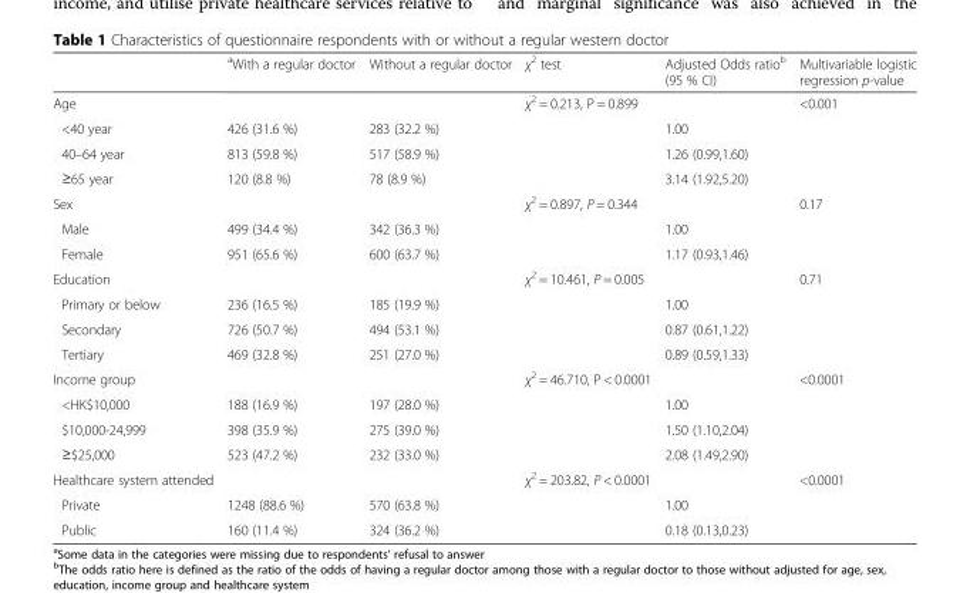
<table><thead><tr><td></td><td><sup>a</sup>With a regular doctor</td><td>Without a regular doctor</td><td>χ<sup>2</sup> test</td><td>Adjusted Odds ratio<sup>b</sup> (95 % CI)</td><td>Multivariable logistic regression p-value</td></tr></thead><tbody><tr><td>Age</td><td></td><td></td><td>χ<sup>2</sup> = 0.213, P = 0.899</td><td></td><td>&lt;0.001</td></tr><tr><td>&lt;40 year</td><td>426 (31.6 %)</td><td>283 (32.2 %)</td><td></td><td>1.00</td><td></td></tr><tr><td>40–64 year</td><td>813 (59.8 %)</td><td>517 (58.9 %)</td><td></td><td>1.26 (0.99,1.60)</td><td></td></tr><tr><td>≥65 year</td><td>120 (8.8 %)</td><td>78 (8.9 %)</td><td></td><td>3.14 (1.92,5.20)</td><td></td></tr><tr><td>Sex</td><td></td><td></td><td>χ<sup>2</sup> = 0.897, P = 0.344</td><td></td><td>0.17</td></tr><tr><td>Male</td><td>499 (34.4 %)</td><td>342 (36.3 %)</td><td></td><td>1.00</td><td></td></tr><tr><td>Female</td><td>951 (65.6 %)</td><td>600 (63.7 %)</td><td></td><td>1.17 (0.93,1.46)</td><td></td></tr><tr><td>Education</td><td></td><td></td><td>χ<sup>2</sup> = 10.461, P = 0.005</td><td></td><td>0.71</td></tr><tr><td>Primary or below</td><td>236 (16.5 %)</td><td>185 (19.9 %)</td><td></td><td>1.00</td><td></td></tr><tr><td>Secondary</td><td>726 (50.7 %)</td><td>494 (53.1 %)</td><td></td><td>0.87 (0.61,1.22)</td><td></td></tr><tr><td>Tertiary</td><td>469 (32.8 %)</td><td>251 (27.0 %)</td><td></td><td>0.89 (0.59,1.33)</td><td></td></tr><tr><td>Income group</td><td></td><td></td><td>χ<sup>2</sup> = 46.710, P &lt; 0.0001</td><td></td><td>&lt;0.0001</td></tr><tr><td>&lt;HK$10,000</td><td>188 (16.9 %)</td><td>197 (28.0 %)</td><td></td><td>1.00</td><td></td></tr><tr><td>$10,000-24,999</td><td>398 (35.9 %)</td><td>275 (39.0 %)</td><td></td><td>1.50 (1.10,2.04)</td><td></td></tr><tr><td>≥$25,000</td><td>523 (47.2 %)</td><td>232 (33.0 %)</td><td></td><td>2.08 (1.49,2.90)</td><td></td></tr><tr><td>Healthcare system attended</td><td></td><td></td><td>χ<sup>2</sup> = 203.82, P &lt; 0.0001</td><td></td><td>&lt;0.0001</td></tr><tr><td>Private</td><td>1248 (88.6 %)</td><td>570 (63.8 %)</td><td></td><td>1.00</td><td></td></tr><tr><td>Public</td><td>160 (11.4 %)</td><td>324 (36.2 %)</td><td></td><td>0.18 (0.13,0.23)</td><td></td></tr></tbody></table>